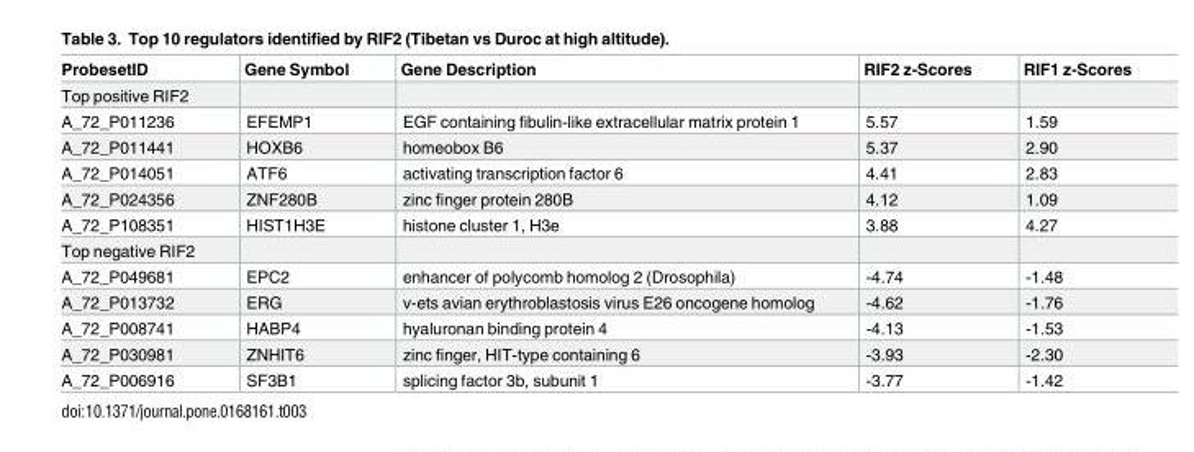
<table><thead><tr><td>ProbesetID</td><td>Gene Symbol</td><td>Gene Description</td><td>RIF2 z-Scores</td><td>RIF1 z-Scores</td></tr></thead><tbody><tr><td colspan="5">Top positive RIF2</td></tr><tr><td>A_72_P011236</td><td>EFEMP1</td><td>EGF containing fibulin-like extracellular matrix protein 1</td><td>5.57</td><td>1.59</td></tr><tr><td>A_72_P011441</td><td>HOXB6</td><td>homeobox B6</td><td>5.37</td><td>2.90</td></tr><tr><td>A_72_P014051</td><td>ATF6</td><td>activating transcription factor 6</td><td>4.41</td><td>2.83</td></tr><tr><td>A_72_P024356</td><td>ZNF280B</td><td>zinc finger protein 280B</td><td>4.12</td><td>1.09</td></tr><tr><td>A_72_P108351</td><td>HIST1H3E</td><td>histone cluster 1, H3e</td><td>3.88</td><td>4.27</td></tr><tr><td colspan="5">Top negative RIF2</td></tr><tr><td>A_72_P049681</td><td>EPC2</td><td>enhancer of polycomb homolog 2 (Drosophila)</td><td>-4.74</td><td>-1.48</td></tr><tr><td>A_72_P013732</td><td>ERG</td><td>v-ets avian erythroblastosis virus E26 oncogene homolog</td><td>-4.62</td><td>-1.76</td></tr><tr><td>A_72_P008741</td><td>HABP4</td><td>hyaluronan binding protein 4</td><td>-4.13</td><td>-1.53</td></tr><tr><td>A_72_P030981</td><td>ZNHIT6</td><td>zinc finger, HIT-type containing 6</td><td>-3.93</td><td>-2.30</td></tr><tr><td>A_72_P006916</td><td>SF3B1</td><td>splicing factor 3b, subunit 1</td><td>-3.77</td><td>-1.42</td></tr></tbody></table>